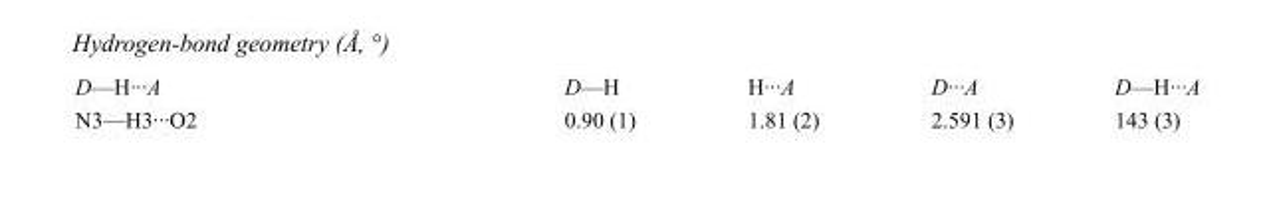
<table><tbody><tr><td>D—H···A</td><td>D—H</td><td>H···A</td><td>D···A</td><td>D—H···A</td></tr><tr><td>N3—H3···O2</td><td>0.90 (1)</td><td>1.81 (2)</td><td>2.591 (3)</td><td>143 (3)</td></tr></tbody></table>